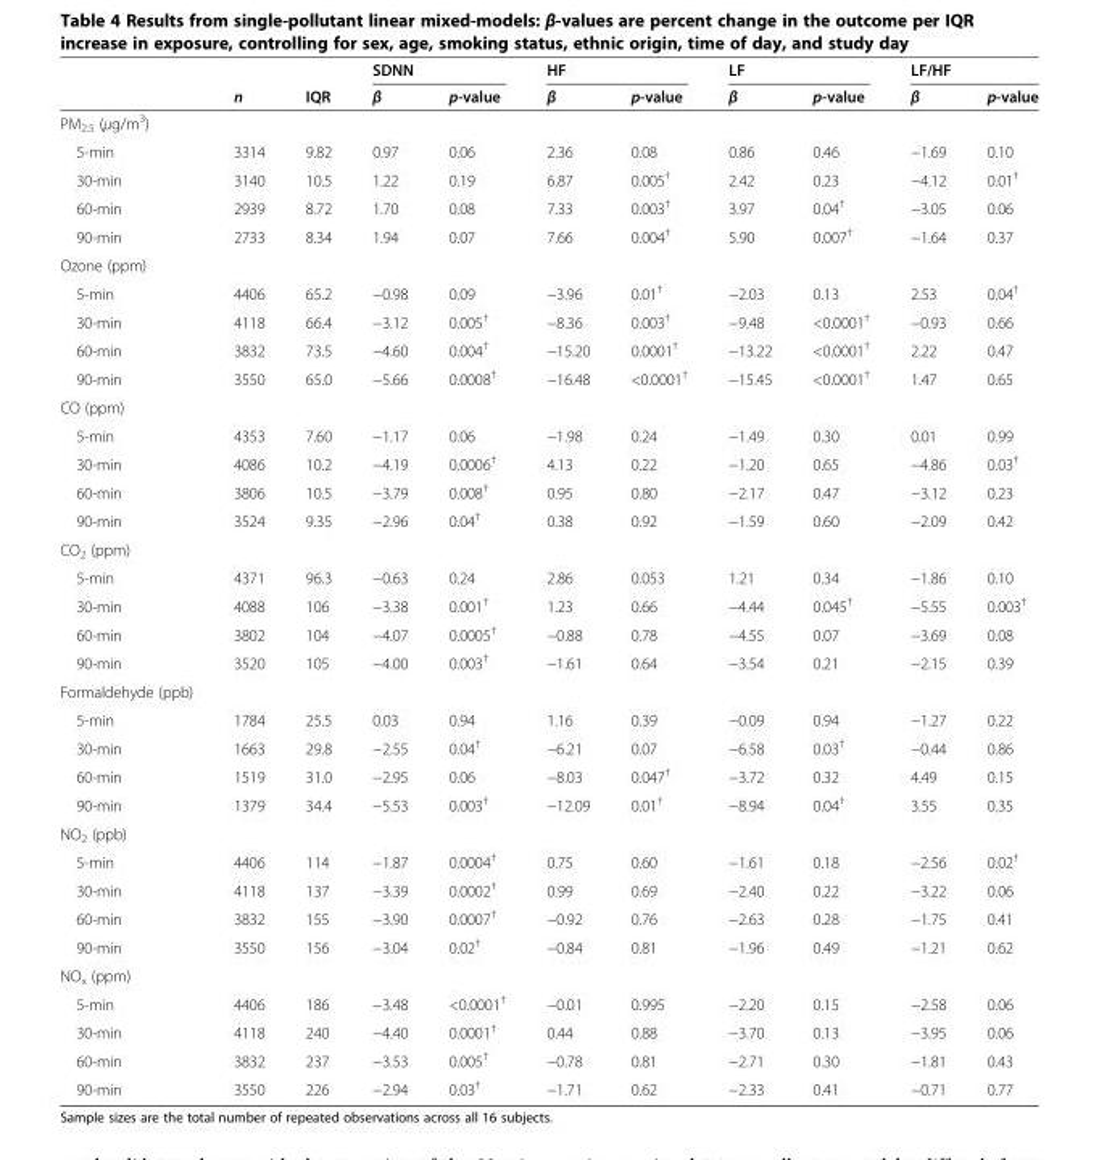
<table><thead><tr><td rowspan="2"></td><td rowspan="2">n</td><td rowspan="2">IQR</td><td colspan="2">SDNN</td><td colspan="2">HF</td><td colspan="2">LF</td><td colspan="2">LF/HF</td></tr><tr><td>β</td><td>p-value</td><td>β</td><td>p-value</td><td>β</td><td>p-value</td><td>β</td><td>p-value</td></tr></thead><tbody><tr><td colspan="11">PM<sub>2.5</sub> (μg/m<sup>3</sup>)</td></tr><tr><td>5-min</td><td>3314</td><td>9.82</td><td>0.97</td><td>0.06</td><td>2.36</td><td>0.08</td><td>0.86</td><td>0.46</td><td>−1.69</td><td>0.10</td></tr><tr><td>30-min</td><td>3140</td><td>10.5</td><td>1.22</td><td>0.19</td><td>6.87</td><td>0.005<sup>†</sup></td><td>2.42</td><td>0.23</td><td>−4.12</td><td>0.01<sup>†</sup></td></tr><tr><td>60-min</td><td>2939</td><td>8.72</td><td>1.70</td><td>0.08</td><td>7.33</td><td>0.003<sup>†</sup></td><td>3.97</td><td>0.04<sup>†</sup></td><td>−3.05</td><td>0.06</td></tr><tr><td>90-min</td><td>2733</td><td>8.34</td><td>1.94</td><td>0.07</td><td>7.66</td><td>0.004<sup>†</sup></td><td>5.90</td><td>0.007<sup>†</sup></td><td>−1.64</td><td>0.37</td></tr><tr><td colspan="11">Ozone (ppm)</td></tr><tr><td>5-min</td><td>4406</td><td>65.2</td><td>−0.98</td><td>0.09</td><td>−3.96</td><td>0.01<sup>†</sup></td><td>−2.03</td><td>0.13</td><td>2.53</td><td>0.04<sup>†</sup></td></tr><tr><td>30-min</td><td>4118</td><td>66.4</td><td>−3.12</td><td>0.005<sup>†</sup></td><td>−8.36</td><td>0.003<sup>†</sup></td><td>−9.48</td><td>&lt;0.0001<sup>†</sup></td><td>−0.93</td><td>0.66</td></tr><tr><td>60-min</td><td>3832</td><td>73.5</td><td>−4.60</td><td>0.004<sup>†</sup></td><td>−15.20</td><td>0.0001<sup>†</sup></td><td>−13.22</td><td>&lt;0.0001<sup>†</sup></td><td>2.22</td><td>0.47</td></tr><tr><td>90-min</td><td>3550</td><td>65.0</td><td>−5.66</td><td>0.0008<sup>†</sup></td><td>−16.48</td><td>&lt;0.0001<sup>†</sup></td><td>−15.45</td><td>&lt;0.0001<sup>†</sup></td><td>1.47</td><td>0.65</td></tr><tr><td colspan="11">CO (ppm)</td></tr><tr><td>5-min</td><td>4353</td><td>7.60</td><td>−1.17</td><td>0.06</td><td>−1.98</td><td>0.24</td><td>−1.49</td><td>0.30</td><td>0.01</td><td>0.99</td></tr><tr><td>30-min</td><td>4086</td><td>10.2</td><td>−4.19</td><td>0.0006<sup>†</sup></td><td>4.13</td><td>0.22</td><td>−1.20</td><td>0.65</td><td>−4.86</td><td>0.03<sup>†</sup></td></tr><tr><td>60-min</td><td>3806</td><td>10.5</td><td>−3.79</td><td>0.008<sup>†</sup></td><td>0.95</td><td>0.80</td><td>−2.17</td><td>0.47</td><td>−3.12</td><td>0.23</td></tr><tr><td>90-min</td><td>3524</td><td>9.35</td><td>−2.96</td><td>0.04<sup>†</sup></td><td>0.38</td><td>0.92</td><td>−1.59</td><td>0.60</td><td>−2.09</td><td>0.42</td></tr><tr><td colspan="11">CO<sub>2</sub> (ppm)</td></tr><tr><td>5-min</td><td>4371</td><td>96.3</td><td>−0.63</td><td>0.24</td><td>2.86</td><td>0.053</td><td>1.21</td><td>0.34</td><td>−1.86</td><td>0.10</td></tr><tr><td>30-min</td><td>4088</td><td>106</td><td>−3.38</td><td>0.001<sup>†</sup></td><td>1.23</td><td>0.66</td><td>−4.44</td><td>0.045<sup>†</sup></td><td>−5.55</td><td>0.003<sup>†</sup></td></tr><tr><td>60-min</td><td>3802</td><td>104</td><td>−4.07</td><td>0.0005<sup>†</sup></td><td>−0.88</td><td>0.78</td><td>−4.55</td><td>0.07</td><td>−3.69</td><td>0.08</td></tr><tr><td>90-min</td><td>3520</td><td>105</td><td>−4.00</td><td>0.003<sup>†</sup></td><td>−1.61</td><td>0.64</td><td>−3.54</td><td>0.21</td><td>−2.15</td><td>0.39</td></tr><tr><td colspan="11">Formaldehyde (ppb)</td></tr><tr><td>5-min</td><td>1784</td><td>25.5</td><td>0.03</td><td>0.94</td><td>1.16</td><td>0.39</td><td>−0.09</td><td>0.94</td><td>−1.27</td><td>0.22</td></tr><tr><td>30-min</td><td>1663</td><td>29.8</td><td>−2.55</td><td>0.04<sup>†</sup></td><td>−6.21</td><td>0.07</td><td>−6.58</td><td>0.03<sup>†</sup></td><td>−0.44</td><td>0.86</td></tr><tr><td>60-min</td><td>1519</td><td>31.0</td><td>−2.95</td><td>0.06</td><td>−8.03</td><td>0.047<sup>†</sup></td><td>−3.72</td><td>0.32</td><td>4.49</td><td>0.15</td></tr><tr><td>90-min</td><td>1379</td><td>34.4</td><td>−5.53</td><td>0.003<sup>†</sup></td><td>−12.09</td><td>0.01<sup>†</sup></td><td>−8.94</td><td>0.04<sup>†</sup></td><td>3.55</td><td>0.35</td></tr><tr><td colspan="11">NO<sub>2</sub> (ppb)</td></tr><tr><td>5-min</td><td>4406</td><td>114</td><td>−1.87</td><td>0.0004<sup>†</sup></td><td>0.75</td><td>0.60</td><td>−1.61</td><td>0.18</td><td>−2.56</td><td>0.02<sup>†</sup></td></tr><tr><td>30-min</td><td>4118</td><td>137</td><td>−3.39</td><td>0.0002<sup>†</sup></td><td>0.99</td><td>0.69</td><td>−2.40</td><td>0.22</td><td>−3.22</td><td>0.06</td></tr><tr><td>60-min</td><td>3832</td><td>155</td><td>−3.90</td><td>0.0007<sup>†</sup></td><td>−0.92</td><td>0.76</td><td>−2.63</td><td>0.28</td><td>−1.75</td><td>0.41</td></tr><tr><td>90-min</td><td>3550</td><td>156</td><td>−3.04</td><td>0.02<sup>†</sup></td><td>−0.84</td><td>0.81</td><td>−1.96</td><td>0.49</td><td>−1.21</td><td>0.62</td></tr><tr><td colspan="11">NO<sub>x</sub> (ppm)</td></tr><tr><td>5-min</td><td>4406</td><td>186</td><td>−3.48</td><td>&lt;0.0001<sup>†</sup></td><td>−0.01</td><td>0.995</td><td>−2.20</td><td>0.15</td><td>−2.58</td><td>0.06</td></tr><tr><td>30-min</td><td>4118</td><td>240</td><td>−4.40</td><td>0.0001<sup>†</sup></td><td>0.44</td><td>0.88</td><td>−3.70</td><td>0.13</td><td>−3.95</td><td>0.06</td></tr><tr><td>60-min</td><td>3832</td><td>237</td><td>−3.53</td><td>0.005<sup>†</sup></td><td>−0.78</td><td>0.81</td><td>−2.71</td><td>0.30</td><td>−1.81</td><td>0.43</td></tr><tr><td>90-min</td><td>3550</td><td>226</td><td>−2.94</td><td>0.03<sup>†</sup></td><td>−1.71</td><td>0.62</td><td>−2.33</td><td>0.41</td><td>−0.71</td><td>0.77</td></tr></tbody></table>